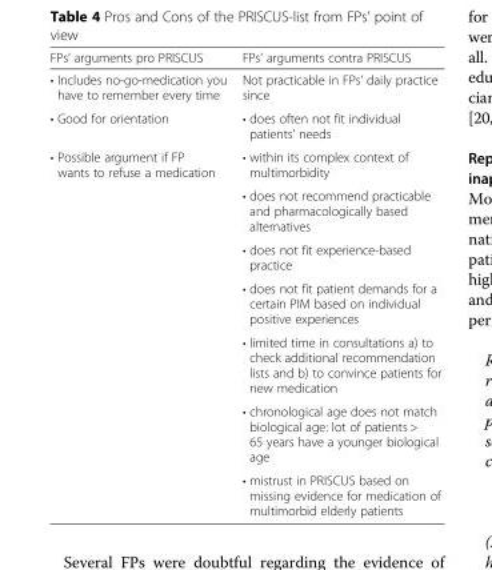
<table><thead><tr><td>FPs’ arguments pro PRISCUS</td><td>FPs’ arguments contra PRISCUS</td></tr></thead><tbody><tr><td>• Includes no-go-medication you have to remember every time</td><td>Not practicable in FPs’ daily practice since</td></tr><tr><td>• Good for orientation</td><td>• does often not fit individual patients’ needs</td></tr><tr><td rowspan="7">• Possible argument if FP wants to refuse a medication</td><td>• within its complex context of multimorbidity</td></tr><tr><td>• does not recommend practicable and pharmacologically based alternatives</td></tr><tr><td>• does not fit experience-based practice</td></tr><tr><td>• does not fit patient demands for a certain PIM based on individual positive experiences</td></tr><tr><td>• limited time in consultations a) to check additional recommendation lists and b) to convince patients for new medication</td></tr><tr><td>• chronological age does not match biological age: lot of patients &gt; 65 years have a younger biological age</td></tr><tr><td>• mistrust in PRISCUS based on missing evidence for medication of multimorbid elderly patients</td></tr></tbody></table>